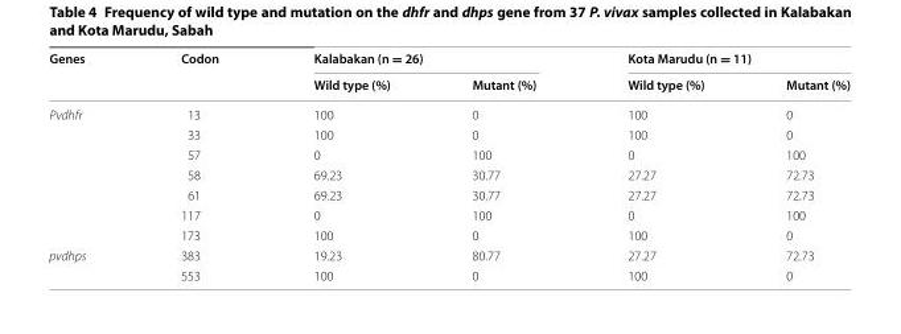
<table><thead><tr><td rowspan="2">Genes</td><td rowspan="2">Codon</td><td colspan="2">Kalabakan (n = 26)</td><td colspan="2">Kota Marudu (n = 11)</td></tr><tr><td>Wild type (%)</td><td>Mutant (%)</td><td>Wild type (%)</td><td>Mutant (%)</td></tr></thead><tbody><tr><td rowspan="7">Pvdhfr</td><td>13</td><td>100</td><td>0</td><td>100</td><td>0</td></tr><tr><td>33</td><td>100</td><td>0</td><td>100</td><td>0</td></tr><tr><td>57</td><td>0</td><td>100</td><td>0</td><td>100</td></tr><tr><td>58</td><td>69.23</td><td>30.77</td><td>27.27</td><td>72.73</td></tr><tr><td>61</td><td>69.23</td><td>30.77</td><td>27.27</td><td>72.73</td></tr><tr><td>117</td><td>0</td><td>100</td><td>0</td><td>100</td></tr><tr><td>173</td><td>100</td><td>0</td><td>100</td><td>0</td></tr><tr><td rowspan="2">pvdhps</td><td>383</td><td>19.23</td><td>80.77</td><td>27.27</td><td>72.73</td></tr><tr><td>553</td><td>100</td><td>0</td><td>100</td><td>0</td></tr></tbody></table>